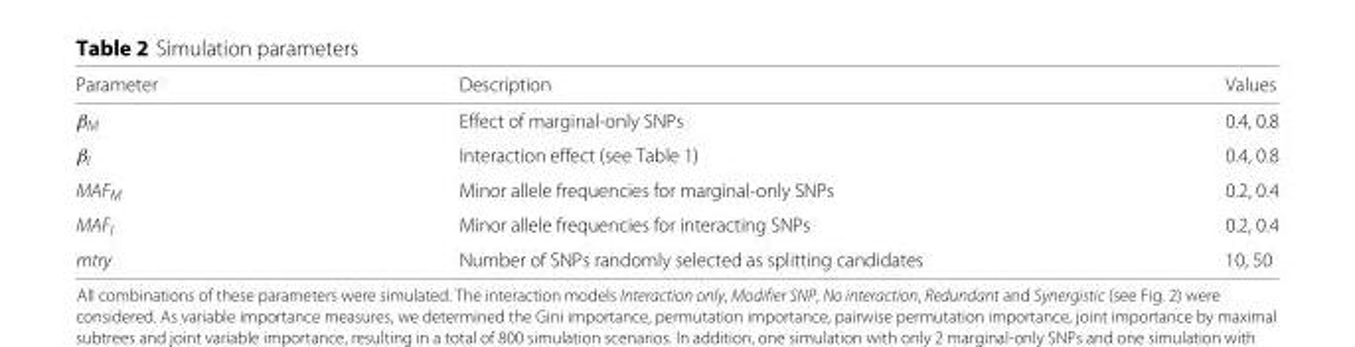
<table><thead><tr><td>Parameter</td><td>Description</td><td>Values</td></tr></thead><tbody><tr><td>β<sub>M</sub></td><td>Effect of marginal-only SNPs</td><td>0.4, 0.8</td></tr><tr><td>β<sub>I</sub></td><td>Interaction effect (see Table 1)</td><td>0.4, 0.8</td></tr><tr><td>MAF<sub>M</sub></td><td>Minor allele frequencies for marginal-only SNPs</td><td>0.2, 0.4</td></tr><tr><td>MAF<sub>I</sub></td><td>Minor allele frequencies for interacting SNPs</td><td>0.2, 0.4</td></tr><tr><td>mtry</td><td>Number of SNPs randomly selected as splitting candidates</td><td>10, 50</td></tr></tbody></table>